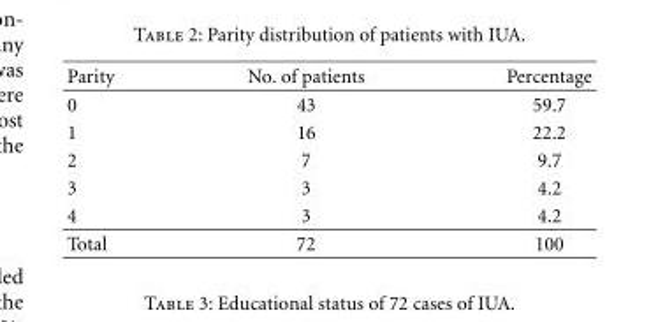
<table><thead><tr><td>Parity</td><td>No. of patients</td><td>Percentage</td></tr></thead><tbody><tr><td>0</td><td>43</td><td>59.7</td></tr><tr><td>1</td><td>16</td><td>22.2</td></tr><tr><td>2</td><td>7</td><td>9.7</td></tr><tr><td>3</td><td>3</td><td>4.2</td></tr><tr><td>4</td><td>3</td><td>4.2</td></tr><tr><td>Total</td><td>72</td><td>100</td></tr></tbody></table>